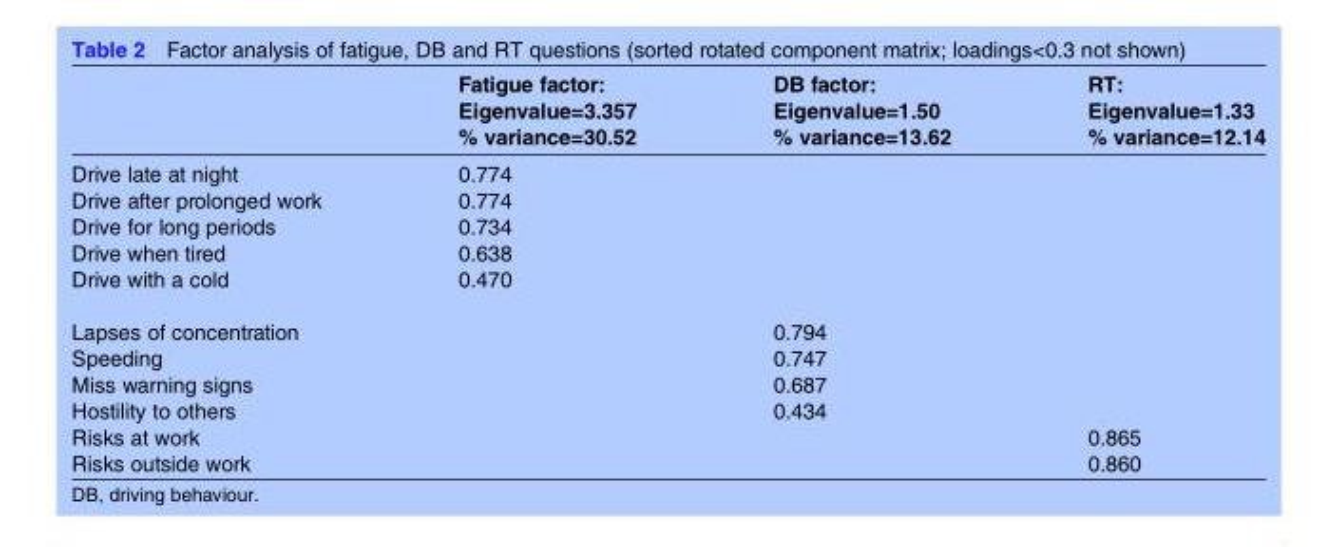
<table><thead><tr><td></td><td>Fatigue factor: Eigenvalue=3.357 % variance=30.52</td><td>DB factor: Eigenvalue=1.50 % variance=13.62</td><td>RT: Eigenvalue=1.33 % variance=12.14</td></tr></thead><tbody><tr><td>Drive late at night</td><td>0.774</td><td></td><td></td></tr><tr><td>Drive after prolonged work</td><td>0.774</td><td></td><td></td></tr><tr><td>Drive for long periods</td><td>0.734</td><td></td><td></td></tr><tr><td>Drive when tired</td><td>0.638</td><td></td><td></td></tr><tr><td>Drive with a cold</td><td>0.470</td><td></td><td></td></tr><tr><td>Lapses of concentration</td><td></td><td>0.794</td><td></td></tr><tr><td>Speeding</td><td></td><td>0.747</td><td></td></tr><tr><td>Miss warning signs</td><td></td><td>0.687</td><td></td></tr><tr><td>Hostility to others</td><td></td><td>0.434</td><td></td></tr><tr><td>Risks at work</td><td></td><td></td><td>0.865</td></tr><tr><td>Risks outside work</td><td></td><td></td><td>0.860</td></tr></tbody></table>